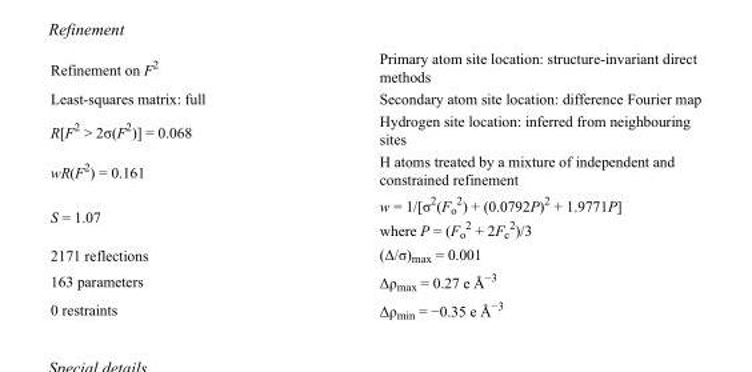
<table><tbody><tr><td>Refinement on F<sup>2</sup></td><td>Primary atom site location: structure-invariant direct methods</td></tr><tr><td>Least-squares matrix: full</td><td>Secondary atom site location: difference Fourier map</td></tr><tr><td>R[F<sup>2</sup> &gt; 2σ(F<sup>2</sup>)] = 0.068</td><td>Hydrogen site location: inferred from neighbouring sites</td></tr><tr><td>wR(F<sup>2</sup>) = 0.161</td><td>H atoms treated by a mixture of independent and constrained refinement</td></tr><tr><td>S = 1.07</td><td>w = 1/[σ<sup>2</sup>(F<sub>o</sub> <sup>2</sup>) + (0.0792P)<sup>2</sup> + 1.9771P] where P = (F<sub>o</sub> <sup>2</sup> + 2F<sub>c</sub> <sup>2</sup>)/3</td></tr><tr><td>2171 reflections</td><td>(Δ/σ)<sub>max</sub> = 0.001</td></tr><tr><td>163 parameters</td><td>Δρ<sub>max</sub> = 0.27 e Å<sup>−3</sup></td></tr><tr><td>0 restraints</td><td>Δρ<sub>min</sub> = −0.35 e Å<sup>−3</sup></td></tr></tbody></table>